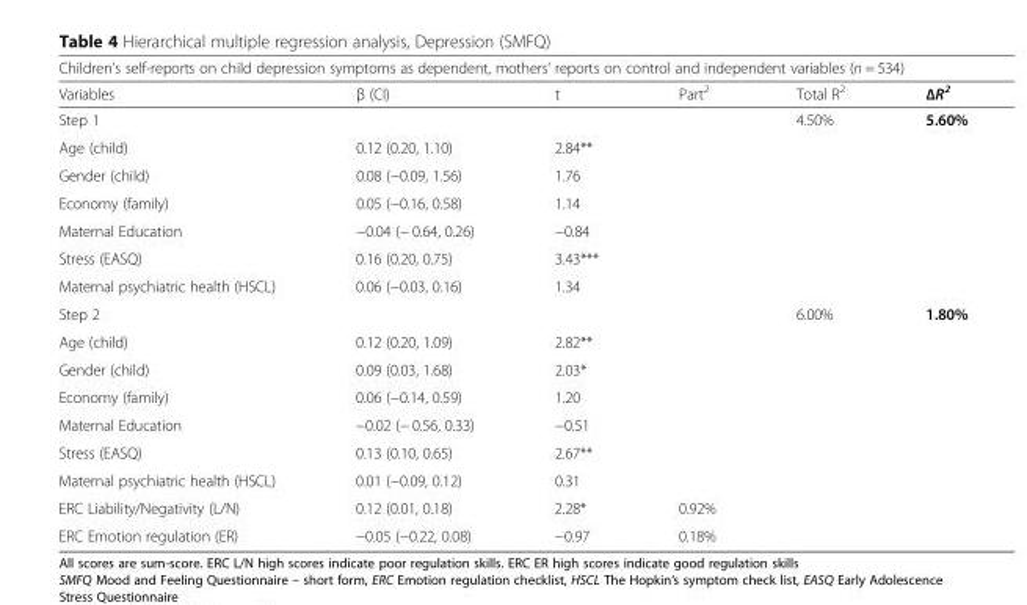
<table><thead><tr><td colspan="6">Children’s self-reports on child depression symptoms as dependent, mothers’ reports on control and independent variables (n = 534)</td></tr><tr><td>Variables</td><td>β (CI)</td><td>t</td><td>Part<sup>2</sup></td><td>Total R<sup>2</sup></td><td>ΔR2</td></tr></thead><tbody><tr><td>Step 1</td><td></td><td></td><td></td><td>4.50%</td><td>5.60%</td></tr><tr><td>Age (child)</td><td>0.12 (0.20, 1.10)</td><td>2.84**</td><td></td><td></td><td></td></tr><tr><td>Gender (child)</td><td>0.08 (−0.09, 1.56)</td><td>1.76</td><td></td><td></td><td></td></tr><tr><td>Economy (family)</td><td>0.05 (−0.16, 0.58)</td><td>1.14</td><td></td><td></td><td></td></tr><tr><td>Maternal Education</td><td>−0.04 (− 0.64, 0.26)</td><td>−0.84</td><td></td><td></td><td></td></tr><tr><td>Stress (EASQ)</td><td>0.16 (0.20, 0.75)</td><td>3.43***</td><td></td><td></td><td></td></tr><tr><td>Maternal psychiatric health (HSCL)</td><td>0.06 (−0.03, 0.16)</td><td>1.34</td><td></td><td></td><td></td></tr><tr><td>Step 2</td><td></td><td></td><td></td><td>6.00%</td><td>1.80%</td></tr><tr><td>Age (child)</td><td>0.12 (0.20, 1.09)</td><td>2.82**</td><td></td><td></td><td></td></tr><tr><td>Gender (child)</td><td>0.09 (0.03, 1.68)</td><td>2.03*</td><td></td><td></td><td></td></tr><tr><td>Economy (family)</td><td>0.06 (−0.14, 0.59)</td><td>1.20</td><td></td><td></td><td></td></tr><tr><td>Maternal Education</td><td>−0.02 (− 0.56, 0.33)</td><td>−0.51</td><td></td><td></td><td></td></tr><tr><td>Stress (EASQ)</td><td>0.13 (0.10, 0.65)</td><td>2.67**</td><td></td><td></td><td></td></tr><tr><td>Maternal psychiatric health (HSCL)</td><td>0.01 (−0.09, 0.12)</td><td>0.31</td><td></td><td></td><td></td></tr><tr><td>ERC Liability/Negativity (L/N)</td><td>0.12 (0.01, 0.18)</td><td>2.28*</td><td>0.92%</td><td></td><td></td></tr><tr><td>ERC Emotion regulation (ER)</td><td>−0.05 (−0.22, 0.08)</td><td>−0.97</td><td>0.18%</td><td></td><td></td></tr></tbody></table>